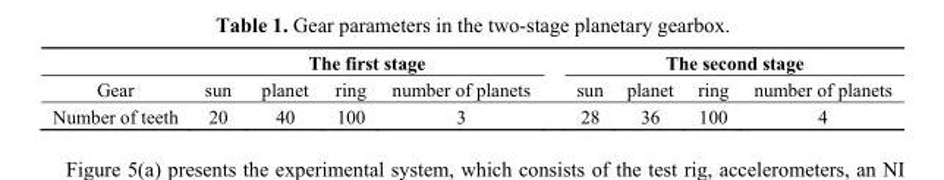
<table><thead><tr><td colspan="5">The first stage</td><td colspan="4">The second stage</td></tr><tr><td>Gear</td><td>sun</td><td>planet</td><td>ring</td><td>number of planets</td><td>sun</td><td>planet</td><td>ring</td><td>number of planets</td></tr></thead><tbody><tr><td>Number of teeth</td><td>20</td><td>40</td><td>100</td><td>3</td><td>28</td><td>36</td><td>100</td><td>4</td></tr></tbody></table>